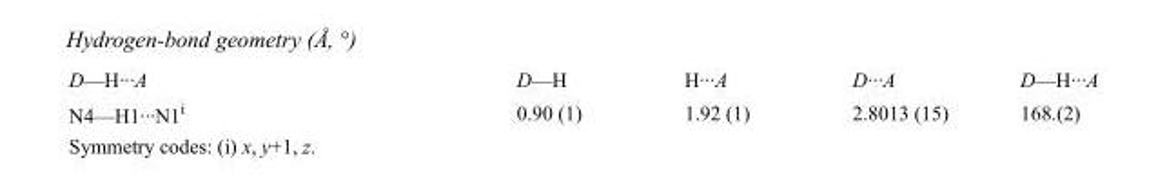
<table><tbody><tr><td>D—H···A</td><td>D—H</td><td>H···A</td><td>D···A</td><td>D—H···A</td></tr><tr><td>N4—H1···N1<sup>i</sup></td><td>0.90 (1)</td><td>1.92 (1)</td><td>2.8013 (15)</td><td>168.(2)</td></tr></tbody></table>